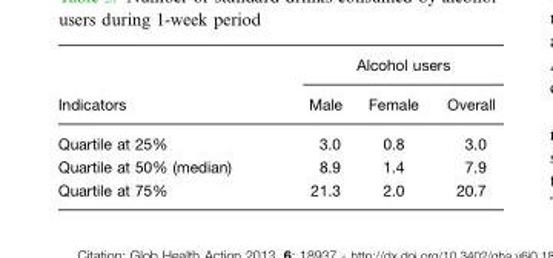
<table><thead><tr><td rowspan="2">Indicators</td><td colspan="3">Alcohol users</td></tr><tr><td>Male</td><td>Female</td><td>Overall</td></tr></thead><tbody><tr><td>Quartile at 25%</td><td>3.0</td><td>0.8</td><td>3.0</td></tr><tr><td>Quartile at 50% (median)</td><td>8.9</td><td>1.4</td><td>7.9</td></tr><tr><td>Quartile at 75%</td><td>21.3</td><td>2.0</td><td>20.7</td></tr></tbody></table>